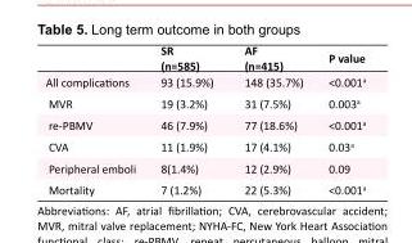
<table><thead><tr><td></td><td>SR (n=585)</td><td>AF (n=415)</td><td>P value</td></tr></thead><tbody><tr><td>All complications</td><td>93 (15.9%)</td><td>148 (35.7%)</td><td>&lt;0.001<sup>a</sup></td></tr><tr><td>MVR</td><td>19 (3.2%)</td><td>31 (7.5%)</td><td>0.003<sup>a</sup></td></tr><tr><td>re-PBMV</td><td>46 (7.9%)</td><td>77 (18.6%)</td><td>&lt;0.001<sup>a</sup></td></tr><tr><td>CVA</td><td>11 (1.9%)</td><td>17 (4.1%)</td><td>0.03<sup>a</sup></td></tr><tr><td>Peripheral emboli</td><td>8(1.4%)</td><td>12 (2.9%)</td><td>0.09</td></tr><tr><td>Mortality</td><td>7 (1.2%)</td><td>22 (5.3%)</td><td>&lt;0.001<sup>a</sup></td></tr></tbody></table>